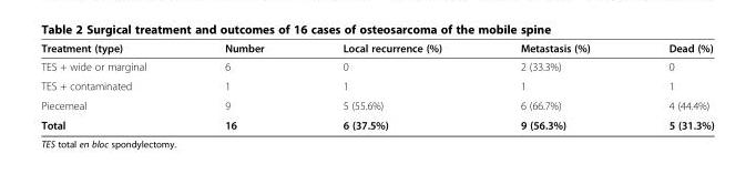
<table><thead><tr><td>Treatment (type)</td><td>Number</td><td>Local recurrence (%)</td><td>Metastasis (%)</td><td>Dead (%)</td></tr></thead><tbody><tr><td>TES + wide or marginal</td><td>6</td><td>0</td><td>2 (33.3%)</td><td>0</td></tr><tr><td>TES + contaminated</td><td>1</td><td>1</td><td>1</td><td>1</td></tr><tr><td>Piecemeal</td><td>9</td><td>5 (55.6%)</td><td>6 (66.7%)</td><td>4 (44.4%)</td></tr><tr><td>Total</td><td>16</td><td>6 (37.5%)</td><td>9 (56.3%)</td><td>5 (31.3%)</td></tr></tbody></table>